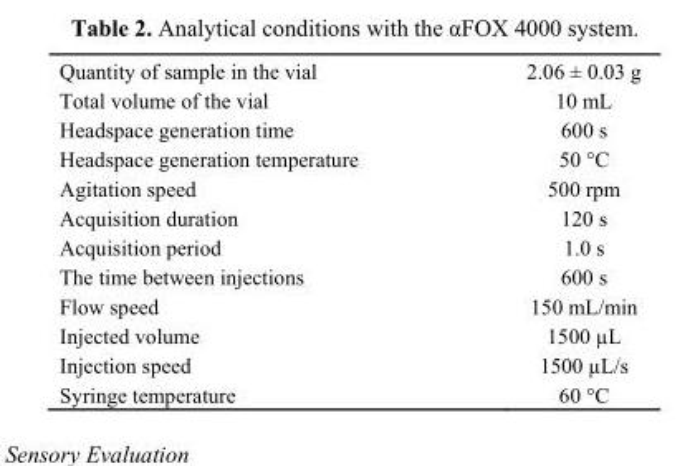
<table><tbody><tr><td>Quantity of sample in the vial</td><td>2.06 ± 0.03 g</td></tr><tr><td>Total volume of the vial</td><td>10 mL</td></tr><tr><td>Headspace generation time</td><td>600 s</td></tr><tr><td>Headspace generation temperature</td><td>50 °C</td></tr><tr><td>Agitation speed</td><td>500 rpm</td></tr><tr><td>Acquisition duration</td><td>120 s</td></tr><tr><td>Acquisition period</td><td>1.0 s</td></tr><tr><td>The time between injections</td><td>600 s</td></tr><tr><td>Flow speed</td><td>150 mL/min</td></tr><tr><td>Injected volume</td><td>1500 µL</td></tr><tr><td>Injection speed</td><td>1500 µL/s</td></tr><tr><td>Syringe temperature</td><td>60 °C</td></tr></tbody></table>